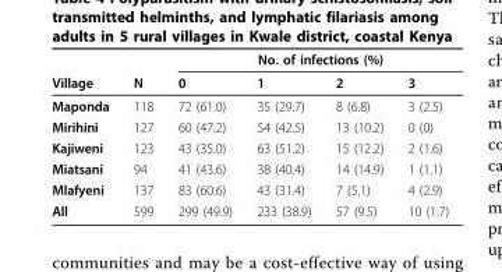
<table><thead><tr><td rowspan="2">Village</td><td rowspan="2">N</td><td colspan="4">No. of infections (%)</td></tr><tr><td>0</td><td>1</td><td>2</td><td>3</td></tr></thead><tbody><tr><td>Maponda</td><td>118</td><td>72 (61.0)</td><td>35 (29.7)</td><td>8 (6.8)</td><td>3 (2.5)</td></tr><tr><td>Mirihini</td><td>127</td><td>60 (47.2)</td><td>54 (42.5)</td><td>13 (10.2)</td><td>0 (0)</td></tr><tr><td>Kajiweni</td><td>123</td><td>43 (35.0)</td><td>63 (51.2)</td><td>15 (12.2)</td><td>2 (1.6)</td></tr><tr><td>Miatsani</td><td>94</td><td>41 (43.6)</td><td>38 (40.4)</td><td>14 (14.9)</td><td>1 (1.1)</td></tr><tr><td>Mlafyeni</td><td>137</td><td>83 (60.6)</td><td>43 (31.4)</td><td>7 (5.1)</td><td>4 (2.9)</td></tr><tr><td>All</td><td>599</td><td>299 (49.9)</td><td>233 (38.9)</td><td>57 (9.5)</td><td>10 (1.7)</td></tr></tbody></table>